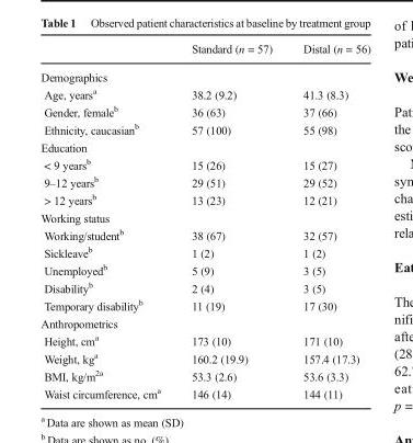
<table><thead><tr><td></td><td>Standard (n = 57)</td><td>Distal (n = 56)</td></tr></thead><tbody><tr><td colspan="3">Demographics</td></tr><tr><td>Age, years<sup>a</sup></td><td>38.2 (9.2)</td><td>41.3 (8.3)</td></tr><tr><td>Gender, female<sup>b</sup></td><td>36 (63)</td><td>37 (66)</td></tr><tr><td>Ethnicity, caucasian<sup>b</sup></td><td>57 (100)</td><td>55 (98)</td></tr><tr><td colspan="3">Education</td></tr><tr><td>&lt; 9 years<sup>b</sup></td><td>15 (26)</td><td>15 (27)</td></tr><tr><td>9–12 years<sup>b</sup></td><td>29 (51)</td><td>29 (52)</td></tr><tr><td>&gt; 12 years<sup>b</sup></td><td>13 (23)</td><td>12 (21)</td></tr><tr><td colspan="3">Working status</td></tr><tr><td>Working/student<sup>b</sup></td><td>38 (67)</td><td>32 (57)</td></tr><tr><td>Sickleave<sup>b</sup></td><td>1 (2)</td><td>1 (2)</td></tr><tr><td>Unemployed<sup>b</sup></td><td>5 (9)</td><td>3 (5)</td></tr><tr><td>Disability<sup>b</sup></td><td>2 (4)</td><td>3 (5)</td></tr><tr><td>Temporary disability<sup>b</sup></td><td>11 (19)</td><td>17 (30)</td></tr><tr><td colspan="3">Anthropometrics</td></tr><tr><td>Height, cm<sup>a</sup></td><td>173 (10)</td><td>171 (10)</td></tr><tr><td>Weight, kg<sup>a</sup></td><td>160.2 (19.9)</td><td>157.4 (17.3)</td></tr><tr><td>BMI, kg/m<sup>2a</sup></td><td>53.3 (2.6)</td><td>53.6 (3.3)</td></tr><tr><td>Waist circumference, cm<sup>a</sup></td><td>146 (14)</td><td>144 (11)</td></tr></tbody></table>